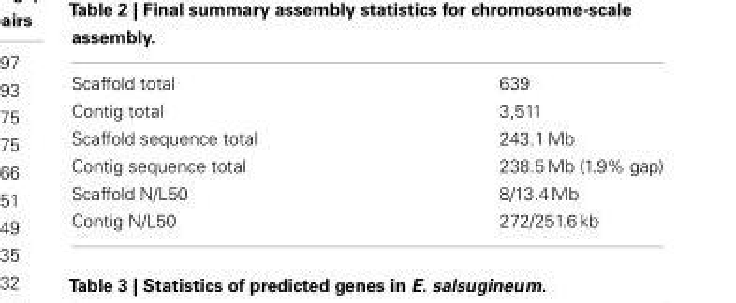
<table><tbody><tr><td>Scaffold total</td><td>639</td></tr><tr><td>Contig total</td><td>3,511</td></tr><tr><td>Scaffold sequence total</td><td>243.1 Mb</td></tr><tr><td>Contig sequence total</td><td>238.5 Mb (1.9% gap)</td></tr><tr><td>Scaffold N/L50</td><td>8/13.4 Mb</td></tr><tr><td>Contig N/L50</td><td>272/251.6 kb</td></tr></tbody></table>